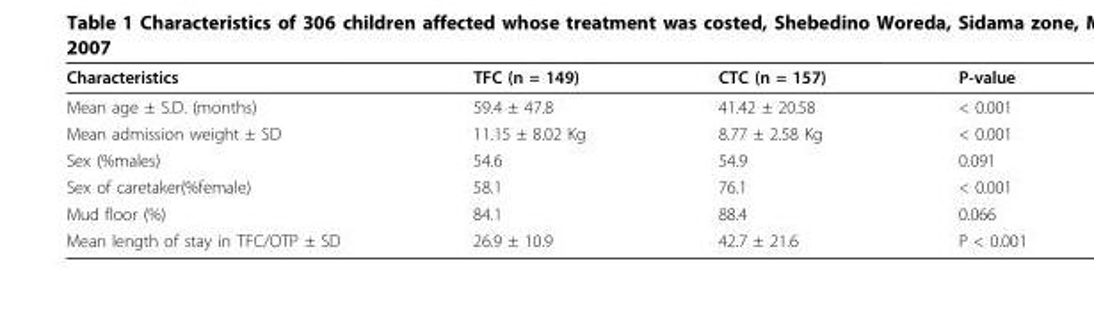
<table><thead><tr><td>Characteristics</td><td>TFC (n = 149)</td><td>CTC (n = 157)</td><td>P-value</td></tr></thead><tbody><tr><td>Mean age ± S.D. (months)</td><td>59.4 ± 47.8</td><td>41.42 ± 20.58</td><td>&lt; 0.001</td></tr><tr><td>Mean admission weight ± SD</td><td>11.15 ± 8.02 Kg</td><td>8.77 ± 2.58 Kg</td><td>&lt; 0.001</td></tr><tr><td>Sex (%males)</td><td>54.6</td><td>54.9</td><td>0.091</td></tr><tr><td>Sex of caretaker(%female)</td><td>58.1</td><td>76.1</td><td>&lt; 0.001</td></tr><tr><td>Mud floor (%)</td><td>84.1</td><td>88.4</td><td>0.066</td></tr><tr><td>Mean length of stay in TFC/OTP ± SD</td><td>26.9 ± 10.9</td><td>42.7 ± 21.6</td><td>P &lt; 0.001</td></tr></tbody></table>